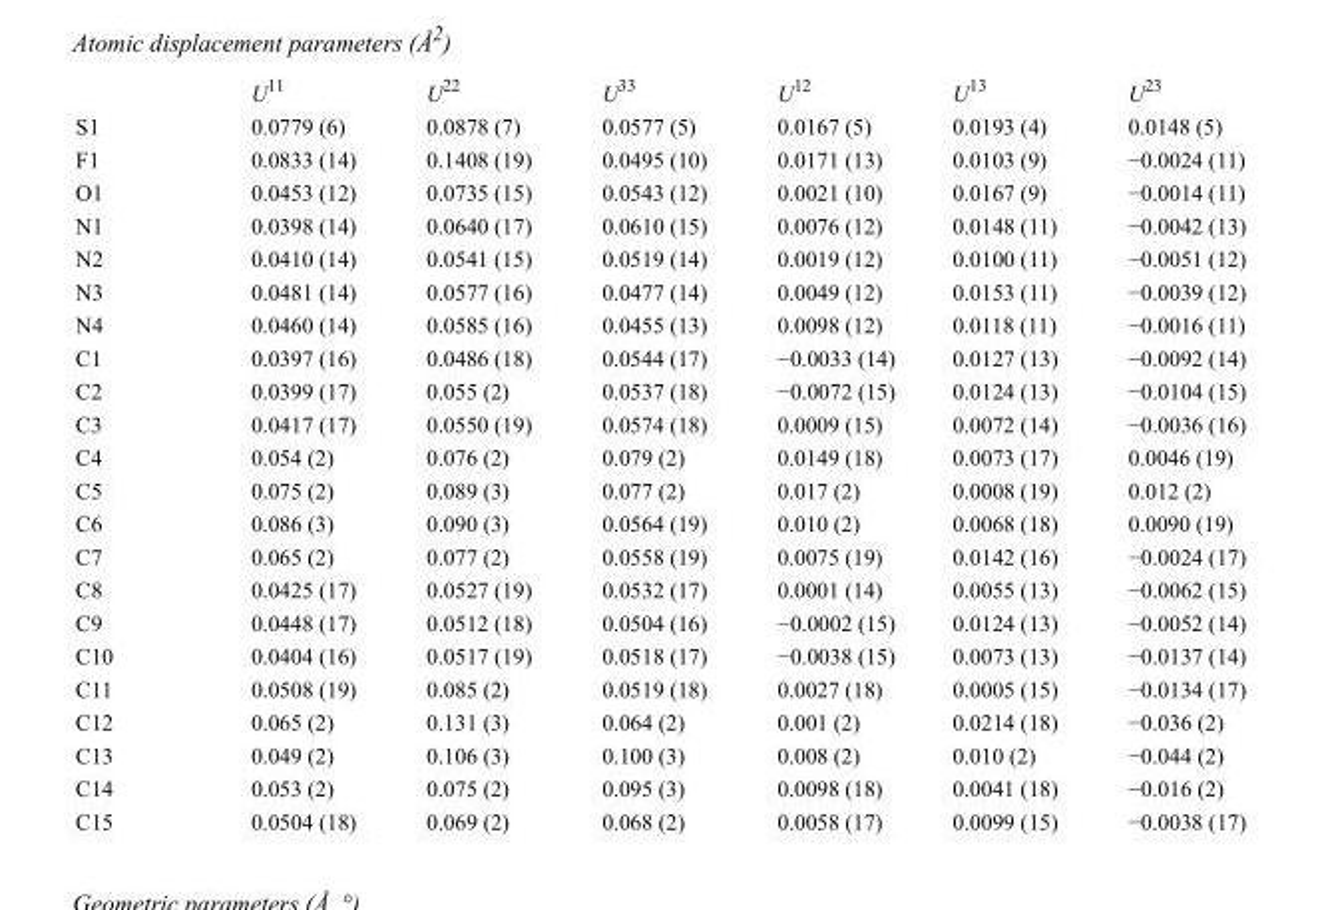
<table><thead><tr><td></td><td>U<sup>11</sup></td><td>U<sup>22</sup></td><td>U<sup>33</sup></td><td>U<sup>12</sup></td><td>U<sup>13</sup></td><td>U<sup>23</sup></td></tr></thead><tbody><tr><td>S1</td><td>0.0779 (6)</td><td>0.0878 (7)</td><td>0.0577 (5)</td><td>0.0167 (5)</td><td>0.0193 (4)</td><td>0.0148 (5)</td></tr><tr><td>F1</td><td>0.0833 (14)</td><td>0.1408 (19)</td><td>0.0495 (10)</td><td>0.0171 (13)</td><td>0.0103 (9)</td><td>−0.0024 (11)</td></tr><tr><td>O1</td><td>0.0453 (12)</td><td>0.0735 (15)</td><td>0.0543 (12)</td><td>0.0021 (10)</td><td>0.0167 (9)</td><td>−0.0014 (11)</td></tr><tr><td>N1</td><td>0.0398 (14)</td><td>0.0640 (17)</td><td>0.0610 (15)</td><td>0.0076 (12)</td><td>0.0148 (11)</td><td>−0.0042 (13)</td></tr><tr><td>N2</td><td>0.0410 (14)</td><td>0.0541 (15)</td><td>0.0519 (14)</td><td>0.0019 (12)</td><td>0.0100 (11)</td><td>−0.0051 (12)</td></tr><tr><td>N3</td><td>0.0481 (14)</td><td>0.0577 (16)</td><td>0.0477 (14)</td><td>0.0049 (12)</td><td>0.0153 (11)</td><td>−0.0039 (12)</td></tr><tr><td>N4</td><td>0.0460 (14)</td><td>0.0585 (16)</td><td>0.0455 (13)</td><td>0.0098 (12)</td><td>0.0118 (11)</td><td>−0.0016 (11)</td></tr><tr><td>C1</td><td>0.0397 (16)</td><td>0.0486 (18)</td><td>0.0544 (17)</td><td>−0.0033 (14)</td><td>0.0127 (13)</td><td>−0.0092 (14)</td></tr><tr><td>C2</td><td>0.0399 (17)</td><td>0.055 (2)</td><td>0.0537 (18)</td><td>−0.0072 (15)</td><td>0.0124 (13)</td><td>−0.0104 (15)</td></tr><tr><td>C3</td><td>0.0417 (17)</td><td>0.0550 (19)</td><td>0.0574 (18)</td><td>0.0009 (15)</td><td>0.0072 (14)</td><td>−0.0036 (16)</td></tr><tr><td>C4</td><td>0.054 (2)</td><td>0.076 (2)</td><td>0.079 (2)</td><td>0.0149 (18)</td><td>0.0073 (17)</td><td>0.0046 (19)</td></tr><tr><td>C5</td><td>0.075 (2)</td><td>0.089 (3)</td><td>0.077 (2)</td><td>0.017 (2)</td><td>0.0008 (19)</td><td>0.012 (2)</td></tr><tr><td>C6</td><td>0.086 (3)</td><td>0.090 (3)</td><td>0.0564 (19)</td><td>0.010 (2)</td><td>0.0068 (18)</td><td>0.0090 (19)</td></tr><tr><td>C7</td><td>0.065 (2)</td><td>0.077 (2)</td><td>0.0558 (19)</td><td>0.0075 (19)</td><td>0.0142 (16)</td><td>−0.0024 (17)</td></tr><tr><td>C8</td><td>0.0425 (17)</td><td>0.0527 (19)</td><td>0.0532 (17)</td><td>0.0001 (14)</td><td>0.0055 (13)</td><td>−0.0062 (15)</td></tr><tr><td>C9</td><td>0.0448 (17)</td><td>0.0512 (18)</td><td>0.0504 (16)</td><td>−0.0002 (15)</td><td>0.0124 (13)</td><td>−0.0052 (14)</td></tr><tr><td>C10</td><td>0.0404 (16)</td><td>0.0517 (19)</td><td>0.0518 (17)</td><td>−0.0038 (15)</td><td>0.0073 (13)</td><td>−0.0137 (14)</td></tr><tr><td>C11</td><td>0.0508 (19)</td><td>0.085 (2)</td><td>0.0519 (18)</td><td>0.0027 (18)</td><td>0.0005 (15)</td><td>−0.0134 (17)</td></tr><tr><td>C12</td><td>0.065 (2)</td><td>0.131 (3)</td><td>0.064 (2)</td><td>0.001 (2)</td><td>0.0214 (18)</td><td>−0.036 (2)</td></tr><tr><td>C13</td><td>0.049 (2)</td><td>0.106 (3)</td><td>0.100 (3)</td><td>0.008 (2)</td><td>0.010 (2)</td><td>−0.044 (2)</td></tr><tr><td>C14</td><td>0.053 (2)</td><td>0.075 (2)</td><td>0.095 (3)</td><td>0.0098 (18)</td><td>0.0041 (18)</td><td>−0.016 (2)</td></tr><tr><td>C15</td><td>0.0504 (18)</td><td>0.069 (2)</td><td>0.068 (2)</td><td>0.0058 (17)</td><td>0.0099 (15)</td><td>−0.0038 (17)</td></tr></tbody></table>